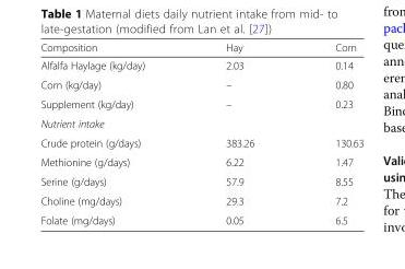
<table><thead><tr><td>Composition</td><td>Hay</td><td>Corn</td></tr></thead><tbody><tr><td>Alfalfa Haylage (kg/day)</td><td>2.03</td><td>0.14</td></tr><tr><td>Corn (kg/day)</td><td>–</td><td>0.80</td></tr><tr><td>Supplement (kg/day)</td><td>–</td><td>0.23</td></tr><tr><td colspan="3">Nutrient intake</td></tr><tr><td>Crude protein (g/days)</td><td>383.26</td><td>130.63</td></tr><tr><td>Methionine (g/days)</td><td>6.22</td><td>1.47</td></tr><tr><td>Serine (g/days)</td><td>57.9</td><td>8.55</td></tr><tr><td>Choline (mg/days)</td><td>29.3</td><td>7.2</td></tr><tr><td>Folate (mg/days)</td><td>0.05</td><td>6.5</td></tr></tbody></table>